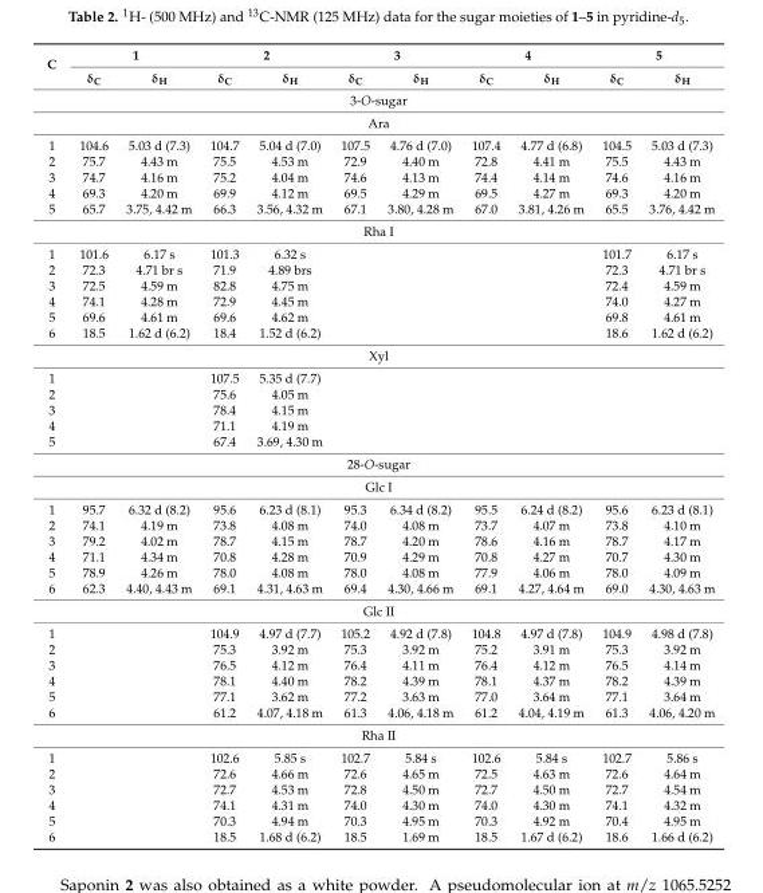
<table><thead><tr><td rowspan="2">C</td><td colspan="2">1</td><td colspan="2">2</td><td colspan="2">3</td><td colspan="2">4</td><td colspan="2">5</td></tr><tr><td>δ<sub>C</sub></td><td>δ<sub>H</sub></td><td>δ<sub>C</sub></td><td>δ<sub>H</sub></td><td>δ<sub>C</sub></td><td>δ<sub>H</sub></td><td>δ<sub>C</sub></td><td>δ<sub>H</sub></td><td>δ<sub>C</sub></td><td>δ<sub>H</sub></td></tr></thead><tbody><tr><td colspan="11">3-O-sugar</td></tr><tr><td colspan="11">Ara</td></tr><tr><td>1</td><td>104.6</td><td>5.03 d (7.3)</td><td>104.7</td><td>5.04 d (7.0)</td><td>107.5</td><td>4.76 d (7.0)</td><td>107.4</td><td>4.77 d (6.8)</td><td>104.5</td><td>5.03 d (7.3)</td></tr><tr><td>2</td><td>75.7</td><td>4.43 m</td><td>75.5</td><td>4.53 m</td><td>72.9</td><td>4.40 m</td><td>72.8</td><td>4.41 m</td><td>75.5</td><td>4.43 m</td></tr><tr><td>3</td><td>74.7</td><td>4.16 m</td><td>75.2</td><td>4.04 m</td><td>74.6</td><td>4.13 m</td><td>74.4</td><td>4.14 m</td><td>74.6</td><td>4.16 m</td></tr><tr><td>4</td><td>69.3</td><td>4.20 m</td><td>69.9</td><td>4.12 m</td><td>69.5</td><td>4.29 m</td><td>69.5</td><td>4.27 m</td><td>69.3</td><td>4.20 m</td></tr><tr><td>5</td><td>65.7</td><td>3.75, 4.42 m</td><td>66.3</td><td>3.56, 4.32 m</td><td>67.1</td><td>3.80, 4.28 m</td><td>67.0</td><td>3.81, 4.26 m</td><td>65.5</td><td>3.76, 4.42 m</td></tr><tr><td colspan="11">Rha I</td></tr><tr><td>1</td><td>101.6</td><td>6.17 s</td><td>101.3</td><td>6.32 s</td><td></td><td></td><td></td><td></td><td>101.7</td><td>6.17 s</td></tr><tr><td>2</td><td>72.3</td><td>4.71 br s</td><td>71.9</td><td>4.89 brs</td><td></td><td></td><td></td><td></td><td>72.3</td><td>4.71 br s</td></tr><tr><td>3</td><td>72.5</td><td>4.59 m</td><td>82.8</td><td>4.75 m</td><td></td><td></td><td></td><td></td><td>72.4</td><td>4.59 m</td></tr><tr><td>4</td><td>74.1</td><td>4.28 m</td><td>72.9</td><td>4.45 m</td><td></td><td></td><td></td><td></td><td>74.0</td><td>4.27 m</td></tr><tr><td>5</td><td>69.6</td><td>4.61 m</td><td>69.6</td><td>4.62 m</td><td></td><td></td><td></td><td></td><td>69.8</td><td>4.61 m</td></tr><tr><td>6</td><td>18.5</td><td>1.62 d (6.2)</td><td>18.4</td><td>1.52 d (6.2)</td><td></td><td></td><td></td><td></td><td>18.6</td><td>1.62 d (6.2)</td></tr><tr><td colspan="11">Xyl</td></tr><tr><td>1</td><td></td><td></td><td>107.5</td><td>5.35 d (7.7)</td><td></td><td></td><td></td><td></td><td></td><td></td></tr><tr><td>2</td><td></td><td></td><td>75.6</td><td>4.05 m</td><td></td><td></td><td></td><td></td><td></td><td></td></tr><tr><td>3</td><td></td><td></td><td>78.4</td><td>4.15 m</td><td></td><td></td><td></td><td></td><td></td><td></td></tr><tr><td>4</td><td></td><td></td><td>71.1</td><td>4.19 m</td><td></td><td></td><td></td><td></td><td></td><td></td></tr><tr><td>5</td><td></td><td></td><td>67.4</td><td>3.69, 4.30 m</td><td></td><td></td><td></td><td></td><td></td><td></td></tr><tr><td colspan="11">28-O-sugar</td></tr><tr><td colspan="11">Glc I</td></tr><tr><td>1</td><td>95.7</td><td>6.32 d (8.2)</td><td>95.6</td><td>6.23 d (8.1)</td><td>95.3</td><td>6.34 d (8.2)</td><td>95.5</td><td>6.24 d (8.2)</td><td>95.6</td><td>6.23 d (8.1)</td></tr><tr><td>2</td><td>74.1</td><td>4.19 m</td><td>73.8</td><td>4.08 m</td><td>74.0</td><td>4.08 m</td><td>73.7</td><td>4.07 m</td><td>73.8</td><td>4.10 m</td></tr><tr><td>3</td><td>79.2</td><td>4.02 m</td><td>78.7</td><td>4.15 m</td><td>78.7</td><td>4.20 m</td><td>78.6</td><td>4.16 m</td><td>78.7</td><td>4.17 m</td></tr><tr><td>4</td><td>71.1</td><td>4.34 m</td><td>70.8</td><td>4.28 m</td><td>70.9</td><td>4.29 m</td><td>70.8</td><td>4.27 m</td><td>70.7</td><td>4.30 m</td></tr><tr><td>5</td><td>78.9</td><td>4.26 m</td><td>78.0</td><td>4.08 m</td><td>78.0</td><td>4.08 m</td><td>77.9</td><td>4.06 m</td><td>78.0</td><td>4.09 m</td></tr><tr><td>6</td><td>62.3</td><td>4.40, 4.43 m</td><td>69.1</td><td>4.31, 4.63 m</td><td>69.4</td><td>4.30, 4.66 m</td><td>69.1</td><td>4.27, 4.64 m</td><td>69.0</td><td>4.30, 4.63 m</td></tr><tr><td colspan="11">Glc II</td></tr><tr><td>1</td><td></td><td></td><td>104.9</td><td>4.97 d (7.7)</td><td>105.2</td><td>4.92 d (7.8)</td><td>104.8</td><td>4.97 d (7.8)</td><td>104.9</td><td>4.98 d (7.8)</td></tr><tr><td>2</td><td></td><td></td><td>75.3</td><td>3.92 m</td><td>75.3</td><td>3.92 m</td><td>75.2</td><td>3.91 m</td><td>75.3</td><td>3.92 m</td></tr><tr><td>3</td><td></td><td></td><td>76.5</td><td>4.12 m</td><td>76.4</td><td>4.11 m</td><td>76.4</td><td>4.12 m</td><td>76.5</td><td>4.14 m</td></tr><tr><td>4</td><td></td><td></td><td>78.1</td><td>4.40 m</td><td>78.2</td><td>4.39 m</td><td>78.1</td><td>4.37 m</td><td>78.2</td><td>4.39 m</td></tr><tr><td>5</td><td></td><td></td><td>77.1</td><td>3.62 m</td><td>77.2</td><td>3.63 m</td><td>77.0</td><td>3.64 m</td><td>77.1</td><td>3.64 m</td></tr><tr><td>6</td><td></td><td></td><td>61.2</td><td>4.07, 4.18 m</td><td>61.3</td><td>4.06, 4.18 m</td><td>61.2</td><td>4.04, 4.19 m</td><td>61.3</td><td>4.06, 4.20 m</td></tr><tr><td colspan="11">Rha II</td></tr><tr><td>1</td><td></td><td></td><td>102.6</td><td>5.85 s</td><td>102.7</td><td>5.84 s</td><td>102.6</td><td>5.84 s</td><td>102.7</td><td>5.86 s</td></tr><tr><td>2</td><td></td><td></td><td>72.6</td><td>4.66 m</td><td>72.6</td><td>4.65 m</td><td>72.5</td><td>4.63 m</td><td>72.6</td><td>4.64 m</td></tr><tr><td>3</td><td></td><td></td><td>72.7</td><td>4.53 m</td><td>72.8</td><td>4.50 m</td><td>72.7</td><td>4.50 m</td><td>72.7</td><td>4.54 m</td></tr><tr><td>4</td><td></td><td></td><td>74.1</td><td>4.31 m</td><td>74.0</td><td>4.30 m</td><td>74.0</td><td>4.30 m</td><td>74.1</td><td>4.32 m</td></tr><tr><td>5</td><td></td><td></td><td>70.3</td><td>4.94 m</td><td>70.3</td><td>4.95 m</td><td>70.3</td><td>4.92 m</td><td>70.4</td><td>4.95 m</td></tr><tr><td>6</td><td></td><td></td><td>18.5</td><td>1.68 d (6.2)</td><td>18.5</td><td>1.69 m</td><td>18.5</td><td>1.67 d (6.2)</td><td>18.6</td><td>1.66 d (6.2)</td></tr></tbody></table>